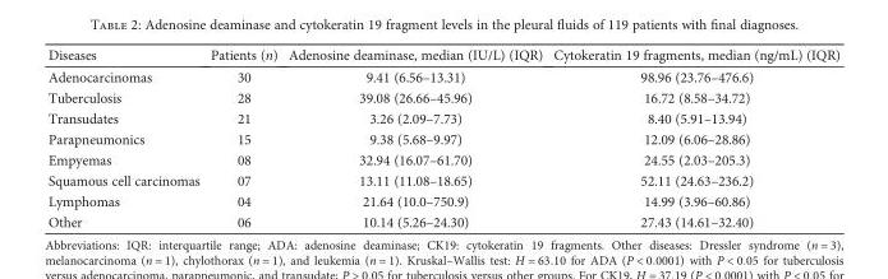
<table><thead><tr><td>Diseases</td><td>Patients (n)</td><td>Adenosine deaminase, median (IU/L) (IQR)</td><td>Cytokeratin 19 fragments, median (ng/mL) (IQR)</td></tr></thead><tbody><tr><td>Adenocarcinomas</td><td>30</td><td>9.41 (6.56–13.31)</td><td>98.96 (23.76–476.6)</td></tr><tr><td>Tuberculosis</td><td>28</td><td>39.08 (26.66–45.96)</td><td>16.72 (8.58–34.72)</td></tr><tr><td>Transudates</td><td>21</td><td>3.26 (2.09–7.73)</td><td>8.40 (5.91–13.94)</td></tr><tr><td>Parapneumonics</td><td>15</td><td>9.38 (5.68–9.97)</td><td>12.09 (6.06–28.86)</td></tr><tr><td>Empyemas</td><td>08</td><td>32.94 (16.07–61.70)</td><td>24.55 (2.03–205.3)</td></tr><tr><td>Squamous cell carcinomas</td><td>07</td><td>13.11 (11.08–18.65)</td><td>52.11 (24.63–236.2)</td></tr><tr><td>Lymphomas</td><td>04</td><td>21.64 (10.0–750.9)</td><td>14.99 (3.96–60.86)</td></tr><tr><td>Other</td><td>06</td><td>10.14 (5.26–24.30)</td><td>27.43 (14.61–32.40)</td></tr></tbody></table>